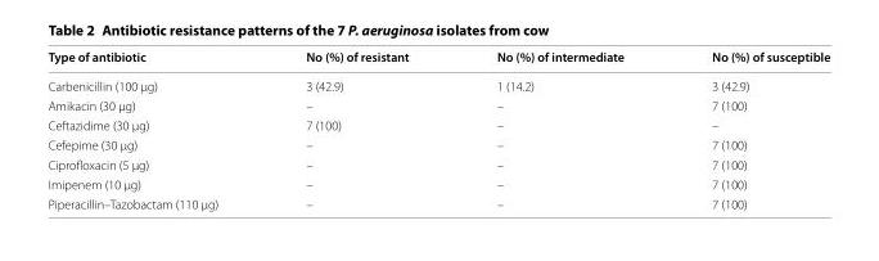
<table><thead><tr><td>Type of antibiotic</td><td>No (%) of resistant</td><td>No (%) of intermediate</td><td>No (%) of susceptible</td></tr></thead><tbody><tr><td>Carbenicillin (100 µg)</td><td>3 (42.9)</td><td>1 (14.2)</td><td>3 (42.9)</td></tr><tr><td>Amikacin (30 µg)</td><td>–</td><td>–</td><td>7 (100)</td></tr><tr><td>Ceftazidime (30 µg)</td><td>7 (100)</td><td>–</td><td>–</td></tr><tr><td>Cefepime (30 µg)</td><td>–</td><td>–</td><td>7 (100)</td></tr><tr><td>Ciprofloxacin (5 µg)</td><td>–</td><td>–</td><td>7 (100)</td></tr><tr><td>Imipenem (10 µg)</td><td>–</td><td>–</td><td>7 (100)</td></tr><tr><td>Piperacillin–Tazobactam (110 µg)</td><td>–</td><td>–</td><td>7 (100)</td></tr></tbody></table>